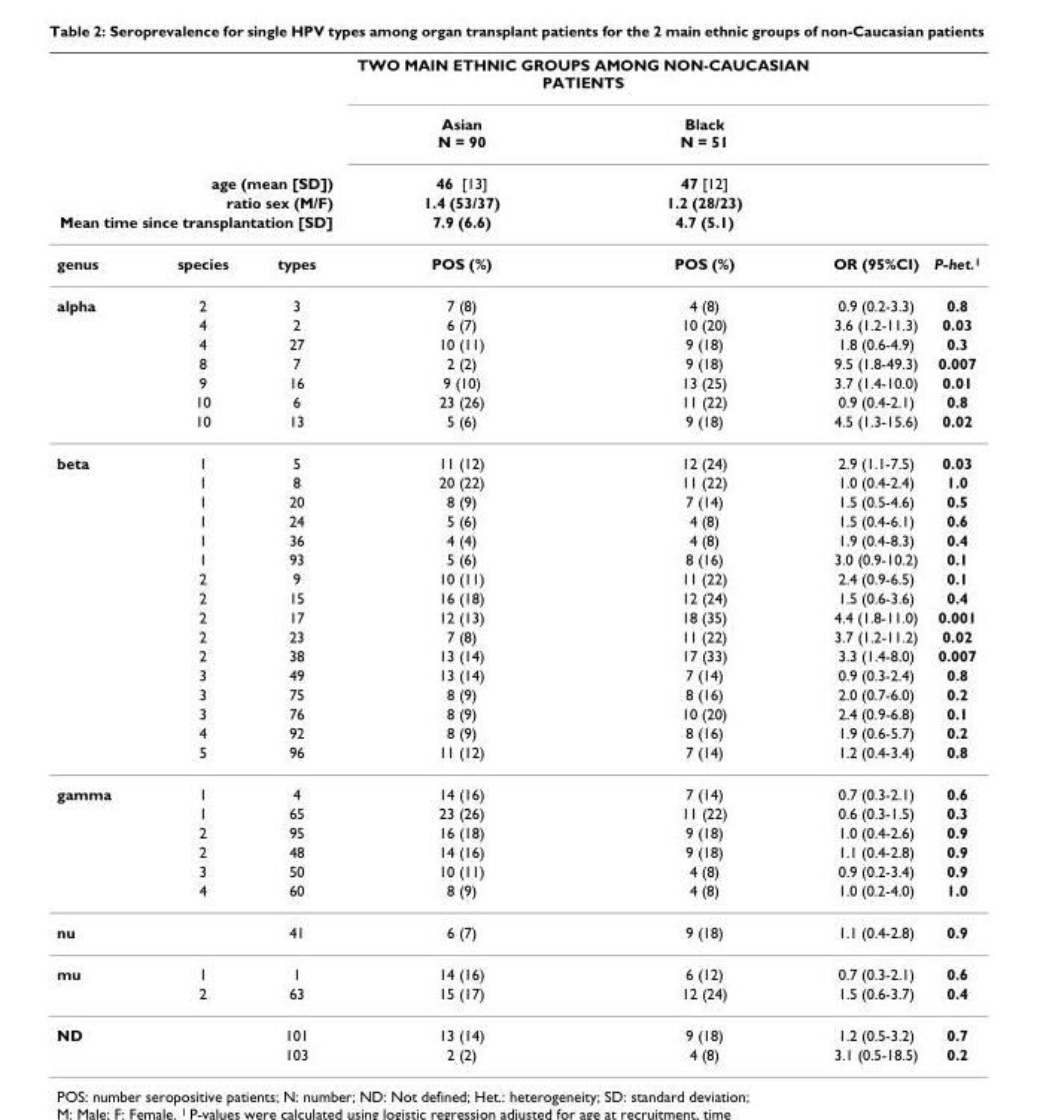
<table><thead><tr><td rowspan="2"></td><td rowspan="2"></td><td rowspan="2"></td><td colspan="2">TWO MAIN ETHNIC GROUPS AMONG NON-CAUCASIAN PATIENTS</td><td rowspan="5"></td><td rowspan="5"></td></tr><tr><td rowspan="4">Asian N = 90 46 [13] 1.4 (53/37) 7.9 (6.6)</td><td rowspan="4">Black N = 51 47 [12] 1.2 (28/23) 4.7 (5.1)</td></tr><tr><td rowspan="3" colspan="3">age (mean [SD]) ratio sex (M/F) Mean time since transplantation [SD]</td></tr><tr></tr><tr></tr></thead><tbody><tr><td>genus</td><td>species</td><td>types</td><td>POS (%)</td><td>POS (%)</td><td>OR (95%CI)</td><td>P-het.1</td></tr><tr><td rowspan="7">alpha</td><td>2</td><td>3</td><td>7 (8)</td><td>4 (8)</td><td>0.9 (0.2-3.3)</td><td>0.8</td></tr><tr><td>4</td><td>2</td><td>6 (7)</td><td>10 (20)</td><td>3.6 (1.2-11.3)</td><td>0.03</td></tr><tr><td>4</td><td>27</td><td>10 (11)</td><td>9 (18)</td><td>1.8 (0.6-4.9)</td><td>0.3</td></tr><tr><td>8</td><td>7</td><td>2 (2)</td><td>9 (18)</td><td>9.5 (1.8-49.3)</td><td>0.007</td></tr><tr><td>9</td><td>16</td><td>9 (10)</td><td>13 (25)</td><td>3.7 (1.4-10.0)</td><td>0.01</td></tr><tr><td>10</td><td>6</td><td>23 (26)</td><td>11 (22)</td><td>0.9 (0.4-2.1)</td><td>0.8</td></tr><tr><td>10</td><td>13</td><td>5 (6)</td><td>9 (18)</td><td>4.5 (1.3-15.6)</td><td>0.02</td></tr><tr><td rowspan="16">beta</td><td>1</td><td>5</td><td>11 (12)</td><td>12 (24)</td><td>2.9 (1.1-7.5)</td><td>0.03</td></tr><tr><td>1</td><td>8</td><td>20 (22)</td><td>11 (22)</td><td>1.0 (0.4-2.4)</td><td>1.0</td></tr><tr><td>1</td><td>20</td><td>8 (9)</td><td>7 (14)</td><td>1.5 (0.5-4.6)</td><td>0.5</td></tr><tr><td>1</td><td>24</td><td>5 (6)</td><td>4 (8)</td><td>1.5 (0.4-6.1)</td><td>0.6</td></tr><tr><td>1</td><td>36</td><td>4 (4)</td><td>4 (8)</td><td>1.9 (0.4-8.3)</td><td>0.4</td></tr><tr><td>1</td><td>93</td><td>5 (6)</td><td>8 (16)</td><td>3.0 (0.9-10.2)</td><td>0.1</td></tr><tr><td>2</td><td>9</td><td>10 (11)</td><td>11 (22)</td><td>2.4 (0.9-6.5)</td><td>0.1</td></tr><tr><td>2</td><td>15</td><td>16 (18)</td><td>12 (24)</td><td>1.5 (0.6-3.6)</td><td>0.4</td></tr><tr><td>2</td><td>17</td><td>12 (13)</td><td>18 (35)</td><td>4.4 (1.8-11.0)</td><td>0.001</td></tr><tr><td>2</td><td>23</td><td>7 (8)</td><td>11 (22)</td><td>3.7 (1.2-11.2)</td><td>0.02</td></tr><tr><td>2</td><td>38</td><td>13 (14)</td><td>17 (33)</td><td>3.3 (1.4-8.0)</td><td>0.007</td></tr><tr><td>3</td><td>49</td><td>13 (14)</td><td>7 (14)</td><td>0.9 (0.3-2.4)</td><td>0.8</td></tr><tr><td>3</td><td>75</td><td>8 (9)</td><td>8 (16)</td><td>2.0 (0.7-6.0)</td><td>0.2</td></tr><tr><td>3</td><td>76</td><td>8 (9)</td><td>10 (20)</td><td>2.4 (0.9-6.8)</td><td>0.1</td></tr><tr><td>4</td><td>92</td><td>8 (9)</td><td>8 (16)</td><td>1.9 (0.6-5.7)</td><td>0.2</td></tr><tr><td>5</td><td>96</td><td>11 (12)</td><td>7 (14)</td><td>1.2 (0.4-3.4)</td><td>0.8</td></tr><tr><td rowspan="6">gamma</td><td>1</td><td>4</td><td>14 (16)</td><td>7 (14)</td><td>0.7 (0.3-2.1)</td><td>0.6</td></tr><tr><td>1</td><td>65</td><td>23 (26)</td><td>11 (22)</td><td>0.6 (0.3-1.5)</td><td>0.3</td></tr><tr><td>2</td><td>95</td><td>16 (18)</td><td>9 (18)</td><td>1.0 (0.4-2.6)</td><td>0.9</td></tr><tr><td>2</td><td>48</td><td>14 (16)</td><td>9 (18)</td><td>1.1 (0.4-2.8)</td><td>0.9</td></tr><tr><td>3</td><td>50</td><td>10 (11)</td><td>4 (8)</td><td>0.9 (0.2-3.4)</td><td>0.9</td></tr><tr><td>4</td><td>60</td><td>8 (9)</td><td>4 (8)</td><td>1.0 (0.2-4.0)</td><td>1.0</td></tr><tr><td>nu</td><td></td><td>41</td><td>6 (7)</td><td>9 (18)</td><td>1.1 (0.4-2.8)</td><td>0.9</td></tr><tr><td rowspan="2">mu</td><td>1</td><td>1</td><td>14 (16)</td><td>6 (12)</td><td>0.7 (0.3-2.1)</td><td>0.6</td></tr><tr><td>2</td><td>63</td><td>15 (17)</td><td>12 (24)</td><td>1.5 (0.6-3.7)</td><td>0.4</td></tr><tr><td rowspan="2">ND</td><td></td><td>101</td><td>13 (14)</td><td>9 (18)</td><td>1.2 (0.5-3.2)</td><td>0.7</td></tr><tr><td></td><td>103</td><td>2 (2)</td><td>4 (8)</td><td>3.1 (0.5-18.5)</td><td>0.2</td></tr></tbody></table>